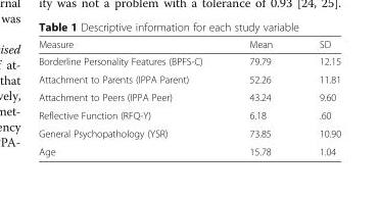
<table><thead><tr><td>Measure</td><td>Mean</td><td>SD</td></tr></thead><tbody><tr><td>Borderline Personality Features (BPFS-C)</td><td>79.79</td><td>12.15</td></tr><tr><td>Attachment to Parents (IPPA Parent)</td><td>52.26</td><td>11.81</td></tr><tr><td>Attachment to Peers (IPPA Peer)</td><td>43.24</td><td>9.60</td></tr><tr><td>Reflective Function (RFQ-Y)</td><td>6.18</td><td>.60</td></tr><tr><td>General Psychopathology (YSR)</td><td>73.85</td><td>10.90</td></tr><tr><td>Age</td><td>15.78</td><td>1.04</td></tr></tbody></table>